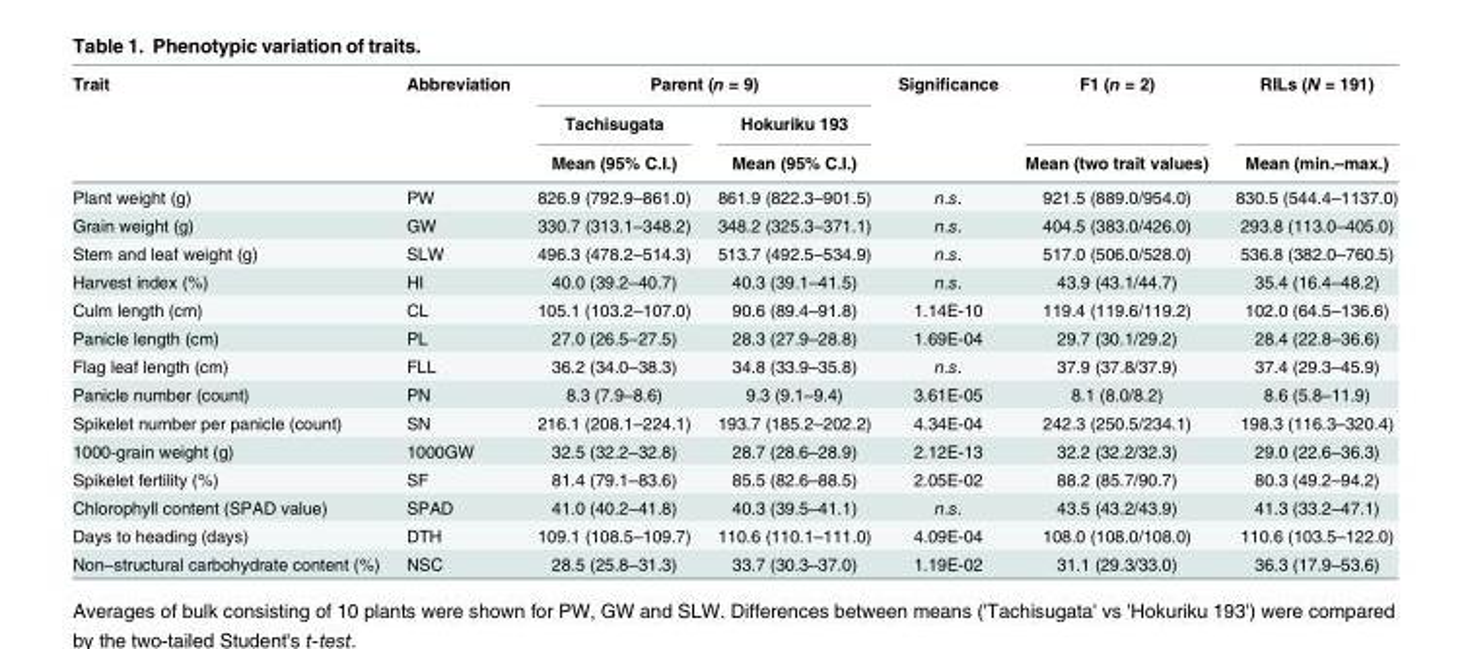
<table><thead><tr><td rowspan="3">Trait</td><td rowspan="3">Abbreviation</td><td colspan="2">Parent (n = 9)</td><td rowspan="3">Significance</td><td rowspan="3">F1 (n = 2) Mean (two trait values)</td><td rowspan="3">RILs (N = 191) Mean (min.–max.)</td></tr><tr><td rowspan="2">Tachisugata Mean (95% C.I.)</td><td rowspan="2">Hokuriku 193 Mean (95% C.I.)</td></tr><tr></tr></thead><tbody><tr><td>Plant weight (g)</td><td>PW</td><td>826.9 (792.9–861.0)</td><td>861.9 (822.3–901.5)</td><td>n.s.</td><td>921.5 (889.0/954.0)</td><td>830.5 (544.4–1137.0)</td></tr><tr><td>Grain weight (g)</td><td>GW</td><td>330.7 (313.1–348.2)</td><td>348.2 (325.3–371.1)</td><td>n.s.</td><td>404.5 (383.0/426.0)</td><td>293.8 (113.0–405.0)</td></tr><tr><td>Stem and leaf weight (g)</td><td>SLW</td><td>496.3 (478.2–514.3)</td><td>513.7 (492.5–534.9)</td><td>n.s.</td><td>517.0 (506.0/528.0)</td><td>536.8 (382.0–760.5)</td></tr><tr><td>Harvest index (%)</td><td>HI</td><td>40.0 (39.2–40.7)</td><td>40.3 (39.1–41.5)</td><td>n.s.</td><td>43.9 (43.1/44.7)</td><td>35.4 (16.4–48.2)</td></tr><tr><td>Culm length (cm)</td><td>CL</td><td>105.1 (103.2–107.0)</td><td>90.6 (89.4–91.8)</td><td>1.14E-10</td><td>119.4 (119.6/119.2)</td><td>102.0 (64.5–136.6)</td></tr><tr><td>Panicle length (cm)</td><td>PL</td><td>27.0 (26.5–27.5)</td><td>28.3 (27.9–28.8)</td><td>1.69E-04</td><td>29.7 (30.1/29.2)</td><td>28.4 (22.8–36.6)</td></tr><tr><td>Flag leaf length (cm)</td><td>FLL</td><td>36.2 (34.0–38.3)</td><td>34.8 (33.9–35.8)</td><td>n.s.</td><td>37.9 (37.8/37.9)</td><td>37.4 (29.3–45.9)</td></tr><tr><td>Panicle number (count)</td><td>PN</td><td>8.3 (7.9–8.6)</td><td>9.3 (9.1–9.4)</td><td>3.61E-05</td><td>8.1 (8.0/8.2)</td><td>8.6 (5.8–11.9)</td></tr><tr><td>Spikelet number per panicle (count)</td><td>SN</td><td>216.1 (208.1–224.1)</td><td>193.7 (185.2–202.2)</td><td>4.34E-04</td><td>242.3 (250.5/234.1)</td><td>198.3 (116.3–320.4)</td></tr><tr><td>1000-grain weight (g)</td><td>1000GW</td><td>32.5 (32.2–32.8)</td><td>28.7 (28.6–28.9)</td><td>2.12E-13</td><td>32.2 (32.2/32.3)</td><td>29.0 (22.6–36.3)</td></tr><tr><td>Spikelet fertility (%)</td><td>SF</td><td>81.4 (79.1–83.6)</td><td>85.5 (82.6–88.5)</td><td>2.05E-02</td><td>88.2 (85.7/90.7)</td><td>80.3 (49.2–94.2)</td></tr><tr><td>Chlorophyll content (SPAD value)</td><td>SPAD</td><td>41.0 (40.2–41.8)</td><td>40.3 (39.5–41.1)</td><td>n.s.</td><td>43.5 (43.2/43.9)</td><td>41.3 (33.2–47.1)</td></tr><tr><td>Days to heading (days)</td><td>DTH</td><td>109.1 (108.5–109.7)</td><td>110.6 (110.1–111.0)</td><td>4.09E-04</td><td>108.0 (108.0/108.0)</td><td>110.6 (103.5–122.0)</td></tr><tr><td>Non–structural carbohydrate content (%)</td><td>NSC</td><td>28.5 (25.8–31.3)</td><td>33.7 (30.3–37.0)</td><td>1.19E-02</td><td>31.1 (29.3/33.0)</td><td>36.3 (17.9–53.6)</td></tr></tbody></table>